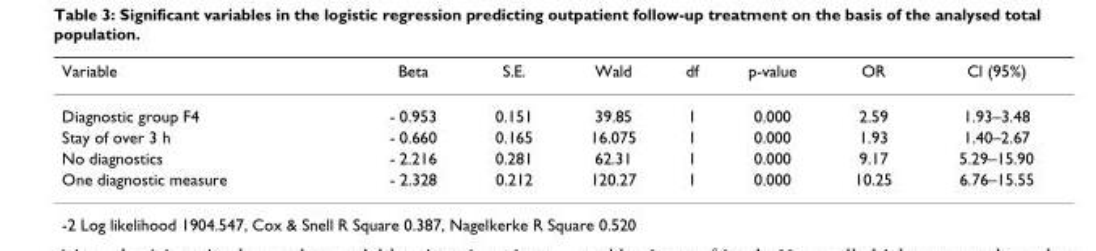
<table><thead><tr><td>Variable</td><td>Beta</td><td>S.E.</td><td>Wald</td><td>df</td><td>p-value</td><td>OR</td><td>Cl (95%)</td></tr></thead><tbody><tr><td>Diagnostic group F4</td><td>- 0.953</td><td>0.151</td><td>39.85</td><td>1</td><td>0.000</td><td>2.59</td><td>1.93–3.48</td></tr><tr><td>Stay of over 3 h</td><td>- 0.660</td><td>0.165</td><td>16.075</td><td>1</td><td>0.000</td><td>1.93</td><td>1.40–2.67</td></tr><tr><td>No diagnostics</td><td>- 2.216</td><td>0.281</td><td>62.31</td><td>1</td><td>0.000</td><td>9.17</td><td>5.29–15.90</td></tr><tr><td>One diagnostic measure</td><td>- 2.328</td><td>0.212</td><td>120.27</td><td>1</td><td>0.000</td><td>10.25</td><td>6.76–15.55</td></tr></tbody></table>